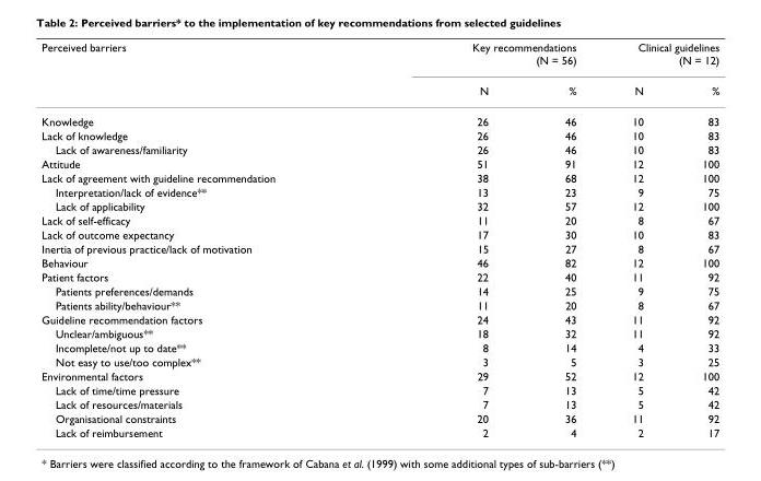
<table><thead><tr><td rowspan="2">Perceived barriers</td><td colspan="2">Key recommendations (N = 56)</td><td colspan="2">Clinical guidelines (N = 12)</td></tr><tr><td>N</td><td>%</td><td>N</td><td>%</td></tr></thead><tbody><tr><td>Knowledge</td><td>26</td><td>46</td><td>10</td><td>83</td></tr><tr><td>Lack of knowledge</td><td>26</td><td>46</td><td>10</td><td>83</td></tr><tr><td>Lack of awareness/familiarity</td><td>26</td><td>46</td><td>10</td><td>83</td></tr><tr><td>Attitude</td><td>51</td><td>91</td><td>12</td><td>100</td></tr><tr><td>Lack of agreement with guideline recommendation</td><td>38</td><td>68</td><td>12</td><td>100</td></tr><tr><td>Interpretation/lack of evidence**</td><td>13</td><td>23</td><td>9</td><td>75</td></tr><tr><td>Lack of applicability</td><td>32</td><td>57</td><td>12</td><td>100</td></tr><tr><td>Lack of self-efficacy</td><td>11</td><td>20</td><td>8</td><td>67</td></tr><tr><td>Lack of outcome expectancy</td><td>17</td><td>30</td><td>10</td><td>83</td></tr><tr><td>Inertia of previous practice/lack of motivation</td><td>15</td><td>27</td><td>8</td><td>67</td></tr><tr><td>Behaviour</td><td>46</td><td>82</td><td>12</td><td>100</td></tr><tr><td>Patient factors</td><td>22</td><td>40</td><td>11</td><td>92</td></tr><tr><td>Patients preferences/demands</td><td>14</td><td>25</td><td>9</td><td>75</td></tr><tr><td>Patients ability/behaviour**</td><td>11</td><td>20</td><td>8</td><td>67</td></tr><tr><td>Guideline recommendation factors</td><td>24</td><td>43</td><td>11</td><td>92</td></tr><tr><td>Unclear/ambiguous**</td><td>18</td><td>32</td><td>11</td><td>92</td></tr><tr><td>Incomplete/not up to date**</td><td>8</td><td>14</td><td>4</td><td>33</td></tr><tr><td>Not easy to use/too complex**</td><td>3</td><td>5</td><td>3</td><td>25</td></tr><tr><td>Environmental factors</td><td>29</td><td>52</td><td>12</td><td>100</td></tr><tr><td>Lack of time/time pressure</td><td>7</td><td>13</td><td>5</td><td>42</td></tr><tr><td>Lack of resources/materials</td><td>7</td><td>13</td><td>5</td><td>42</td></tr><tr><td>Organisational constraints</td><td>20</td><td>36</td><td>11</td><td>92</td></tr><tr><td>Lack of reimbursement</td><td>2</td><td>4</td><td>2</td><td>17</td></tr></tbody></table>